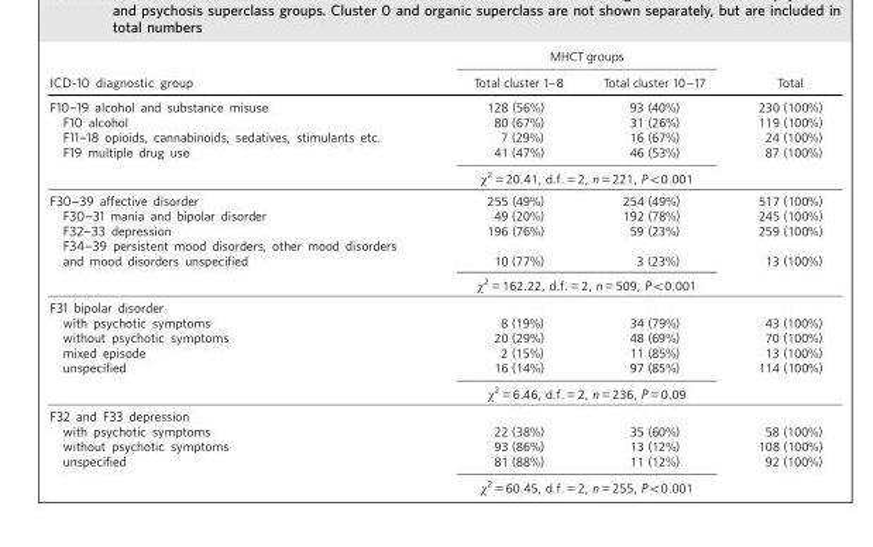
<table><thead><tr><td rowspan="2">ICD-10 diagnostic group</td><td colspan="2">MHCT groups</td><td rowspan="2">Total</td></tr><tr><td>Total cluster 1-8</td><td>Total cluster 10-17</td></tr></thead><tbody><tr><td>F10-19 alcohol and substance misuse</td><td>128 (56%)</td><td>93 (40%)</td><td>230 (100%)</td></tr><tr><td>F10 alcohol</td><td>80 (67%)</td><td>31 (26%)</td><td>119 (100%)</td></tr><tr><td>F11-18 opioids, cannabinoids, sedatives, stimulants etc.</td><td>7 (29%)</td><td>16 (67%)</td><td>24 (100%)</td></tr><tr><td rowspan="2">F19 multiple drug use</td><td>41 (47%)</td><td>46 (53%)</td><td>87 (100%)</td></tr><tr><td colspan="2">χ<sup>2</sup> = 20.41, d.f. = 2, n = 221, P&lt;0.001</td><td></td></tr><tr><td>F30-39 affective disorder</td><td>255 (49%)</td><td>254 (49%)</td><td>517 (100%)</td></tr><tr><td>F30-31 mania and bipolar disorder</td><td>49 (20%)</td><td>192 (78%)</td><td>245 (100%)</td></tr><tr><td>F32-33 depression</td><td>196 (76%)</td><td>59 (23%)</td><td>259 (100%)</td></tr><tr><td rowspan="2">F34-39 persistent mood disorders, other mood disorders and mood disorders unspecified</td><td>10 (77%)</td><td>3 (23%)</td><td>13 (100%)</td></tr><tr><td colspan="2">χ<sup>2</sup> = 162.22, d.f. = 2, n = 509, P&lt;0.001</td><td></td></tr><tr><td colspan="4">F31 bipolar disorder</td></tr><tr><td>with psychotic symptoms</td><td>8 (19%)</td><td>34 (79%)</td><td>43 (100%)</td></tr><tr><td>without psychotic symptoms</td><td>20 (29%)</td><td>48 (69%)</td><td>70 (100%)</td></tr><tr><td>mixed episode</td><td>2 (15%)</td><td>11 (85%)</td><td>13 (100%)</td></tr><tr><td rowspan="2">unspecified</td><td>16 (14%)</td><td>97 (85%)</td><td>114 (100%)</td></tr><tr><td colspan="2">χ<sup>2</sup> = 6.46, d.f. = 2, n = 236, P = 0.09</td><td></td></tr><tr><td colspan="4">F32 and F33 depression</td></tr><tr><td>with psychotic symptoms</td><td>22 (38%)</td><td>35 (60%)</td><td>58 (100%)</td></tr><tr><td>without psychotic symptoms</td><td>93 (86%)</td><td>13 (12%)</td><td>108 (100%)</td></tr><tr><td rowspan="2">unspecified</td><td>81 (88%)</td><td>11 (12%)</td><td>92 (100%)</td></tr><tr><td colspan="2">χ<sup>2</sup> = 60.45, d.f. = 2, n = 255, P&lt;0.001</td><td></td></tr></tbody></table>